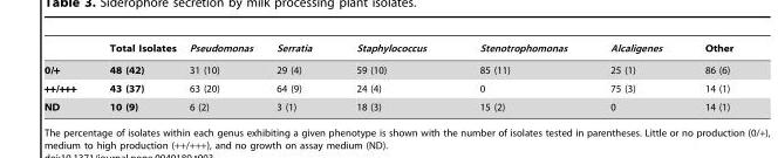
<table><thead><tr><td></td><td>Total Isolates</td><td>Pseudomonas</td><td>Serratia</td><td>Staphylococcus</td><td>Stenotrophomonas</td><td>Alcaligenes</td><td>Other</td></tr></thead><tbody><tr><td>0/+</td><td>48 (42)</td><td>31 (10)</td><td>29 (4)</td><td>59 (10)</td><td>85 (11)</td><td>25 (1)</td><td>86 (6)</td></tr><tr><td>++/+++</td><td>43 (37)</td><td>63 (20)</td><td>64 (9)</td><td>24 (4)</td><td>0</td><td>75 (3)</td><td>14 (1)</td></tr><tr><td>ND</td><td>10 (9)</td><td>6 (2)</td><td>3 (1)</td><td>18 (3)</td><td>15 (2)</td><td>0</td><td>14 (1)</td></tr></tbody></table>